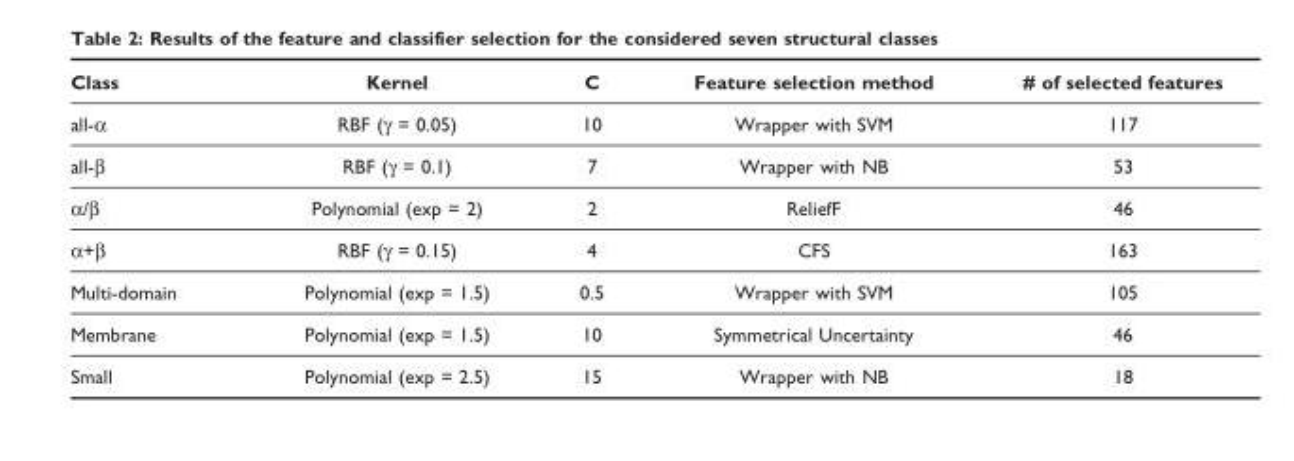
<table><thead><tr><td>Class</td><td>Kernel</td><td>C</td><td>Feature selection method</td><td># of selected features</td></tr></thead><tbody><tr><td>all-α</td><td>RBF (γ = 0.05)</td><td>10</td><td>Wrapper with SVM</td><td>117</td></tr><tr><td>all-β</td><td>RBF (γ = 0.1)</td><td>7</td><td>Wrapper with NB</td><td>53</td></tr><tr><td>α/β</td><td>Polynomial (exp = 2)</td><td>2</td><td>ReliefF</td><td>46</td></tr><tr><td>α+β</td><td>RBF (γ = 0.15)</td><td>4</td><td>CFS</td><td>163</td></tr><tr><td>Multi-domain</td><td>Polynomial (exp = 1.5)</td><td>0.5</td><td>Wrapper with SVM</td><td>105</td></tr><tr><td>Membrane</td><td>Polynomial (exp = 1.5)</td><td>10</td><td>Symmetrical Uncertainty</td><td>46</td></tr><tr><td>Small</td><td>Polynomial (exp = 2.5)</td><td>15</td><td>Wrapper with NB</td><td>18</td></tr></tbody></table>